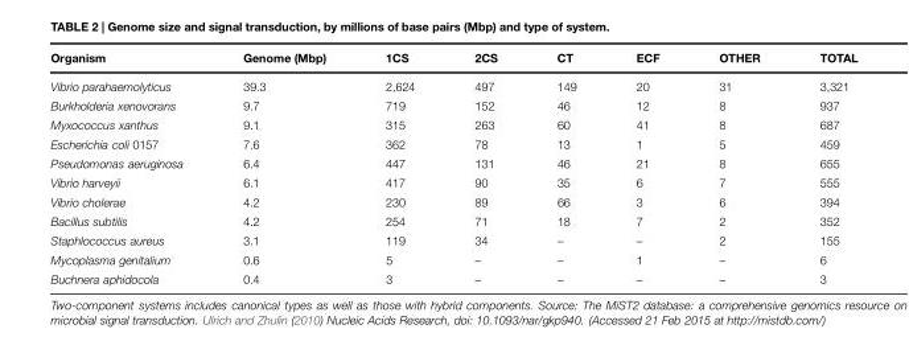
<table><thead><tr><td>Organism</td><td>Genome (Mbp)</td><td>1CS</td><td>2CS</td><td>CT</td><td>ECF</td><td>OTHER</td><td>TOTAL</td></tr></thead><tbody><tr><td>Vibrio parahaemolyticus</td><td>39.3</td><td>2,624</td><td>497</td><td>149</td><td>20</td><td>31</td><td>3,321</td></tr><tr><td>Burkholderia xenovorans</td><td>9.7</td><td>719</td><td>152</td><td>46</td><td>12</td><td>8</td><td>937</td></tr><tr><td>Myxococcus xanthus</td><td>9.1</td><td>315</td><td>263</td><td>60</td><td>41</td><td>8</td><td>687</td></tr><tr><td>Escherichia coli 0157</td><td>7.6</td><td>362</td><td>78</td><td>13</td><td>1</td><td>5</td><td>459</td></tr><tr><td>Pseudomonas aeruginosa</td><td>6.4</td><td>447</td><td>131</td><td>46</td><td>21</td><td>8</td><td>655</td></tr><tr><td>Vibrio harveyii</td><td>6.1</td><td>417</td><td>90</td><td>35</td><td>6</td><td>7</td><td>555</td></tr><tr><td>Vibrio cholerae</td><td>4.2</td><td>230</td><td>89</td><td>66</td><td>3</td><td>6</td><td>394</td></tr><tr><td>Bacillus subtilis</td><td>4.2</td><td>254</td><td>71</td><td>18</td><td>7</td><td>2</td><td>352</td></tr><tr><td>Staphlococcus aureus</td><td>3.1</td><td>119</td><td>34</td><td>–</td><td>–</td><td>2</td><td>155</td></tr><tr><td>Mycoplasma genitalium</td><td>0.6</td><td>5</td><td>–</td><td>–</td><td>1</td><td>–</td><td>6</td></tr><tr><td>Buchnera aphidocola</td><td>0.4</td><td>3</td><td>–</td><td>–</td><td>–</td><td>–</td><td>3</td></tr></tbody></table>